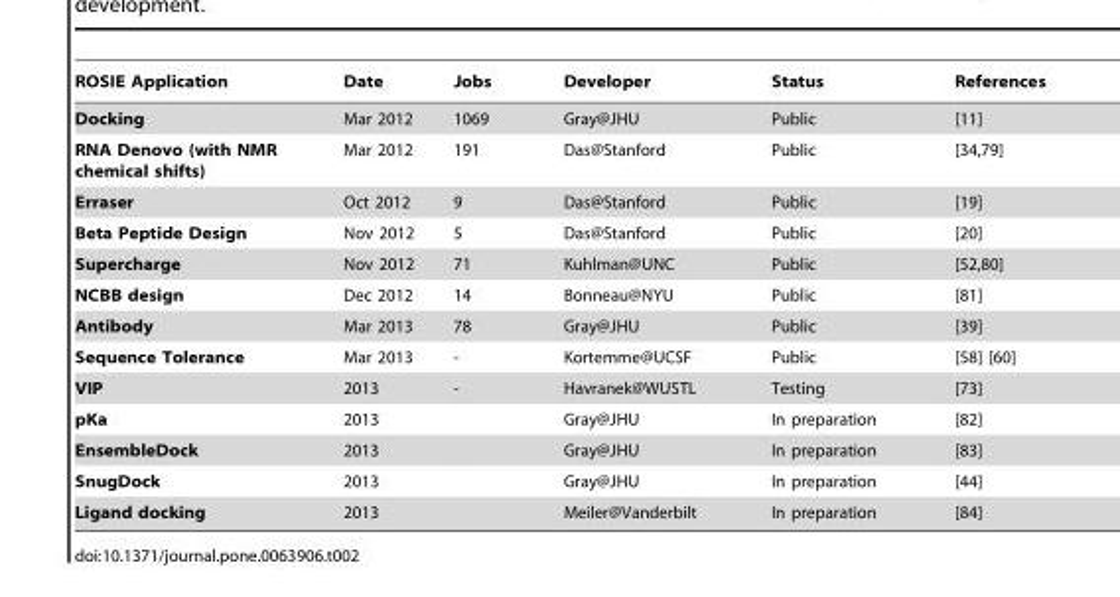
<table><thead><tr><td>ROSIE Application</td><td>Date</td><td>Jobs</td><td>Developer</td><td>Status</td><td>References</td></tr></thead><tbody><tr><td>Docking</td><td>Mar 2012</td><td>1069</td><td>Gray@JHU</td><td>Public</td><td>[11]</td></tr><tr><td>RNA Denovo (with NMR chemical shifts)</td><td>Mar 2012</td><td>191</td><td>Das@Stanford</td><td>Public</td><td>[34,79]</td></tr><tr><td>Erraser</td><td>Oct 2012</td><td>9</td><td>Das@Stanford</td><td>Public</td><td>[19]</td></tr><tr><td>Beta Peptide Design</td><td>Nov 2012</td><td>5</td><td>Das@Stanford</td><td>Public</td><td>[20]</td></tr><tr><td>Supercharge</td><td>Nov 2012</td><td>71</td><td>Kuhlman@UNC</td><td>Public</td><td>[52,80]</td></tr><tr><td>NCBB design</td><td>Dec 2012</td><td>14</td><td>Bonneau@NYU</td><td>Public</td><td>[81]</td></tr><tr><td>Antibody</td><td>Mar 2013</td><td>78</td><td>Gray@JHU</td><td>Public</td><td>[39]</td></tr><tr><td>Sequence Tolerance</td><td>Mar 2013</td><td>-</td><td>Kortemme@UCSF</td><td>Public</td><td>[58] [60]</td></tr><tr><td>VIP</td><td>2013</td><td>-</td><td>Havranek@WUSTL</td><td>Testing</td><td>[73]</td></tr><tr><td>pKa</td><td>2013</td><td></td><td>Gray@JHU</td><td>In preparation</td><td>[82]</td></tr><tr><td>EnsembleDock</td><td>2013</td><td></td><td>Gray@JHU</td><td>In preparation</td><td>[83]</td></tr><tr><td>SnugDock</td><td>2013</td><td></td><td>Gray@JHU</td><td>In preparation</td><td>[44]</td></tr><tr><td>Ligand docking</td><td>2013</td><td></td><td>Meiler@Vanderbilt</td><td>In preparation</td><td>[84]</td></tr></tbody></table>